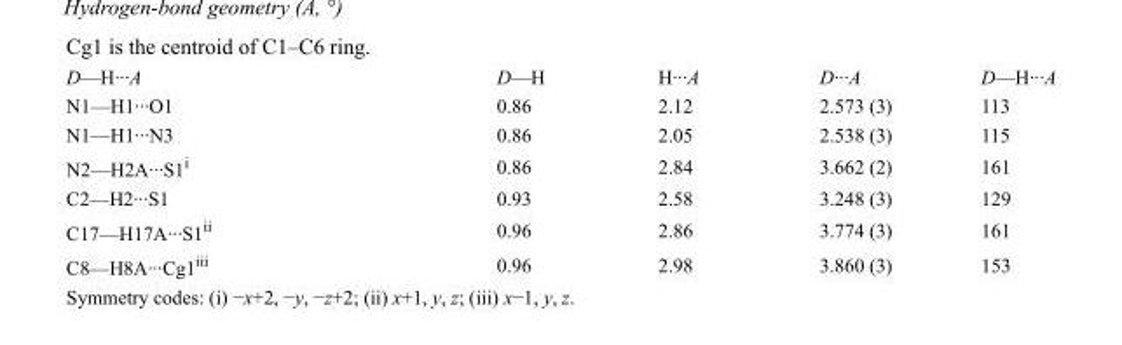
<table><tbody><tr><td>D—H···A</td><td>D—H</td><td>H···A</td><td>D···A</td><td>D—H···A</td></tr><tr><td>N1—H1···O1</td><td>0.86</td><td>2.12</td><td>2.573 (3)</td><td>113</td></tr><tr><td>N1—H1···N3</td><td>0.86</td><td>2.05</td><td>2.538 (3)</td><td>115</td></tr><tr><td>N2—H2A···S1<sup>i</sup></td><td>0.86</td><td>2.84</td><td>3.662 (2)</td><td>161</td></tr><tr><td>C2—H2···S1</td><td>0.93</td><td>2.58</td><td>3.248 (3)</td><td>129</td></tr><tr><td>C17—H17A···S1<sup>ii</sup></td><td>0.96</td><td>2.86</td><td>3.774 (3)</td><td>161</td></tr><tr><td>C8—H8A···Cg1<sup>iii</sup></td><td>0.96</td><td>2.98</td><td>3.860 (3)</td><td>153</td></tr></tbody></table>